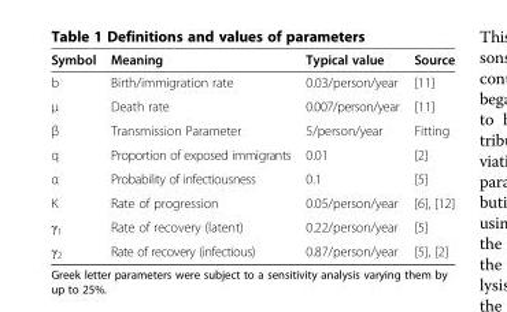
<table><thead><tr><td>Symbol</td><td>Meaning</td><td>Typical value</td><td>Source</td></tr></thead><tbody><tr><td>b</td><td>Birth/immigration rate</td><td>0.03/person/year</td><td>[11]</td></tr><tr><td>μ</td><td>Death rate</td><td>0.007/person/year</td><td>[11]</td></tr><tr><td>β</td><td>Transmission Parameter</td><td>5/person/year</td><td>Fitting</td></tr><tr><td>q</td><td>Proportion of exposed immigrants</td><td>0.01</td><td>[2]</td></tr><tr><td>α</td><td>Probability of infectiousness</td><td>0.1</td><td>[5]</td></tr><tr><td>K</td><td>Rate of progression</td><td>0.05/person/year</td><td>[6], [12]</td></tr><tr><td>γ<sub>1</sub></td><td>Rate of recovery (latent)</td><td>0.22/person/year</td><td>[5]</td></tr><tr><td>γ<sub>2</sub></td><td>Rate of recovery (infectious)</td><td>0.87/person/year</td><td>[5], [2]</td></tr></tbody></table>